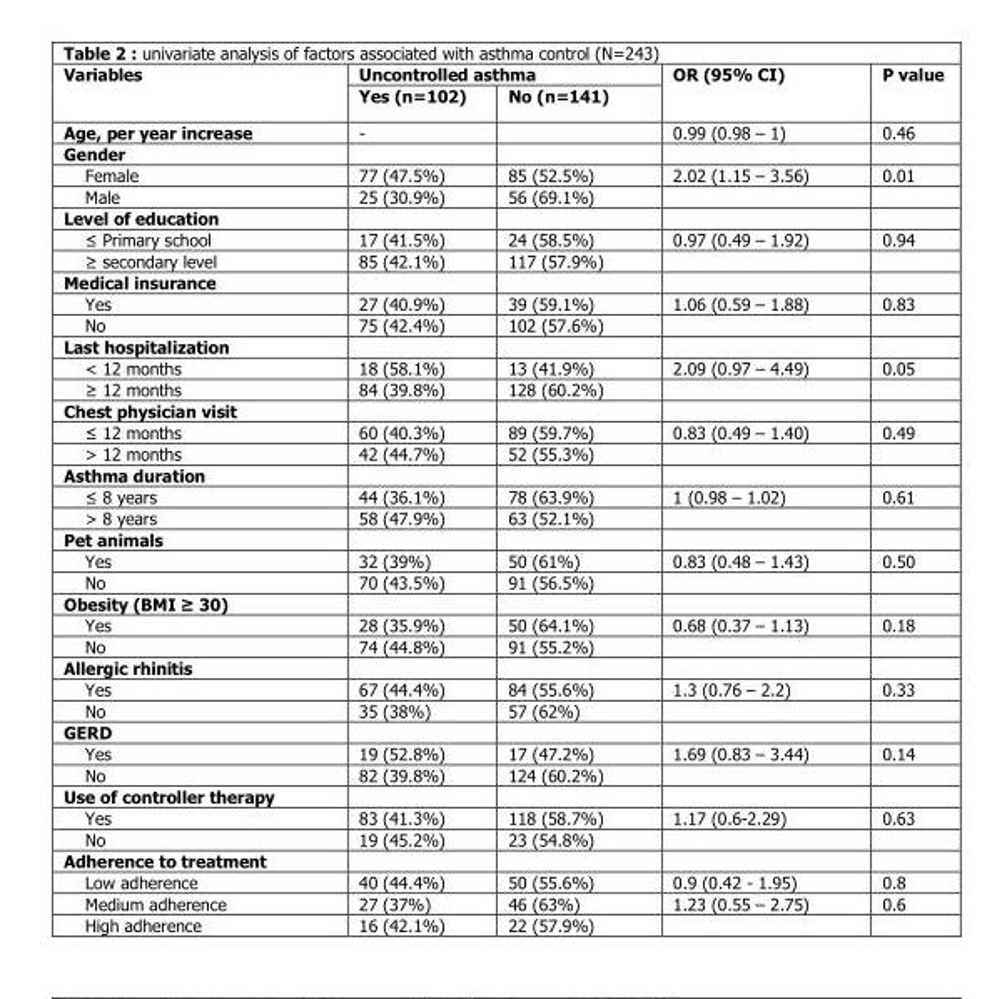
<table><thead><tr><td rowspan="2">Variables</td><td colspan="2">Uncontrolled asthma</td><td rowspan="2">OR (95% CI)</td><td rowspan="2">P value</td></tr><tr><td>Yes (n=102)</td><td>No (n=141)</td></tr></thead><tbody><tr><td>Age, per year increase</td><td>-</td><td></td><td>0.99 (0.98 – 1)</td><td>0.46</td></tr><tr><td colspan="5">Gender</td></tr><tr><td>Female</td><td>77 (47.5%)</td><td>85 (52.5%)</td><td>2.02 (1.15 – 3.56)</td><td>0.01</td></tr><tr><td>Male</td><td>25 (30.9%)</td><td>56 (69.1%)</td><td></td><td></td></tr><tr><td colspan="5">Level of education</td></tr><tr><td>≤ Primary school</td><td>17 (41.5%)</td><td>24 (58.5%)</td><td>0.97 (0.49 – 1.92)</td><td>0.94</td></tr><tr><td>≥ secondary level</td><td>85 (42.1%)</td><td>117 (57.9%)</td><td></td><td></td></tr><tr><td colspan="5">Medical insurance</td></tr><tr><td>Yes</td><td>27 (40.9%)</td><td>39 (59.1%)</td><td>1.06 (0.59 – 1.88)</td><td>0.83</td></tr><tr><td>No</td><td>75 (42.4%)</td><td>102 (57.6%)</td><td></td><td></td></tr><tr><td colspan="5">Last hospitalization</td></tr><tr><td>&lt; 12 months</td><td>18 (58.1%)</td><td>13 (41.9%)</td><td>2.09 (0.97 – 4.49)</td><td>0.05</td></tr><tr><td>≥ 12 months</td><td>84 (39.8%)</td><td>128 (60.2%)</td><td></td><td></td></tr><tr><td colspan="5">Chest physician visit</td></tr><tr><td>≤ 12 months</td><td>60 (40.3%)</td><td>89 (59.7%)</td><td>0.83 (0.49 – 1.40)</td><td>0.49</td></tr><tr><td>&gt; 12 months</td><td>42 (44.7%)</td><td>52 (55.3%)</td><td></td><td></td></tr><tr><td colspan="5">Asthma duration</td></tr><tr><td>≤ 8 years</td><td>44 (36.1%)</td><td>78 (63.9%)</td><td>1 (0.98 – 1.02)</td><td>0.61</td></tr><tr><td>&gt; 8 years</td><td>58 (47.9%)</td><td>63 (52.1%)</td><td></td><td></td></tr><tr><td colspan="5">Pet animals</td></tr><tr><td>Yes</td><td>32 (39%)</td><td>50 (61%)</td><td>0.83 (0.48 – 1.43)</td><td>0.50</td></tr><tr><td>No</td><td>70 (43.5%)</td><td>91 (56.5%)</td><td></td><td></td></tr><tr><td colspan="5">Obesity (BMI ≥ 30)</td></tr><tr><td>Yes</td><td>28 (35.9%)</td><td>50 (64.1%)</td><td>0.68 (0.37 – 1.13)</td><td>0.18</td></tr><tr><td>No</td><td>74 (44.8%)</td><td>91 (55.2%)</td><td></td><td></td></tr><tr><td colspan="5">Allergic rhinitis</td></tr><tr><td>Yes</td><td>67 (44.4%)</td><td>84 (55.6%)</td><td>1.3 (0.76 – 2.2)</td><td>0.33</td></tr><tr><td>No</td><td>35 (38%)</td><td>57 (62%)</td><td></td><td></td></tr><tr><td colspan="5">GERD</td></tr><tr><td>Yes</td><td>19 (52.8%)</td><td>17 (47.2%)</td><td>1.69 (0.83 – 3.44)</td><td>0.14</td></tr><tr><td>No</td><td>82 (39.8%)</td><td>124 (60.2%)</td><td></td><td></td></tr><tr><td colspan="5">Use of controller therapy</td></tr><tr><td>Yes</td><td>83 (41.3%)</td><td>118 (58.7%)</td><td>1.17 (0.6-2.29)</td><td>0.63</td></tr><tr><td>No</td><td>19 (45.2%)</td><td>23 (54.8%)</td><td></td><td></td></tr><tr><td colspan="5">Adherence to treatment</td></tr><tr><td>Low adherence</td><td>40 (44.4%)</td><td>50 (55.6%)</td><td>0.9 (0.42 - 1.95)</td><td>0.8</td></tr><tr><td>Medium adherence</td><td>27 (37%)</td><td>46 (63%)</td><td>1.23 (0.55 – 2.75)</td><td>0.6</td></tr><tr><td>High adherence</td><td>16 (42.1%)</td><td>22 (57.9%)</td><td></td><td></td></tr></tbody></table>